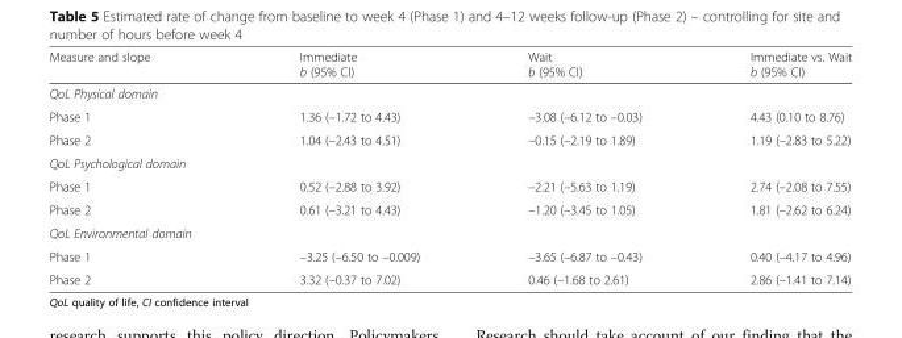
<table><thead><tr><td>Measure and slope</td><td>Immediate b (95% CI)</td><td>Wait b (95% CI)</td><td>Immediate vs. Wait b (95% CI)</td></tr></thead><tbody><tr><td colspan="4">QoL Physical domain</td></tr><tr><td>Phase 1</td><td>1.36 (–1.72 to 4.43)</td><td>–3.08 (–6.12 to –0.03)</td><td>4.43 (0.10 to 8.76)</td></tr><tr><td>Phase 2</td><td>1.04 (–2.43 to 4.51)</td><td>–0.15 (–2.19 to 1.89)</td><td>1.19 (–2.83 to 5.22)</td></tr><tr><td colspan="4">QoL Psychological domain</td></tr><tr><td>Phase 1</td><td>0.52 (–2.88 to 3.92)</td><td>–2.21 (–5.63 to 1.19)</td><td>2.74 (–2.08 to 7.55)</td></tr><tr><td>Phase 2</td><td>0.61 (–3.21 to 4.43)</td><td>–1.20 (–3.45 to 1.05)</td><td>1.81 (–2.62 to 6.24)</td></tr><tr><td colspan="4">QoL Environmental domain</td></tr><tr><td>Phase 1</td><td>–3.25 (–6.50 to –0.009)</td><td>–3.65 (–6.87 to –0.43)</td><td>0.40 (–4.17 to 4.96)</td></tr><tr><td>Phase 2</td><td>3.32 (–0.37 to 7.02)</td><td>0.46 (–1.68 to 2.61)</td><td>2.86 (–1.41 to 7.14)</td></tr></tbody></table>